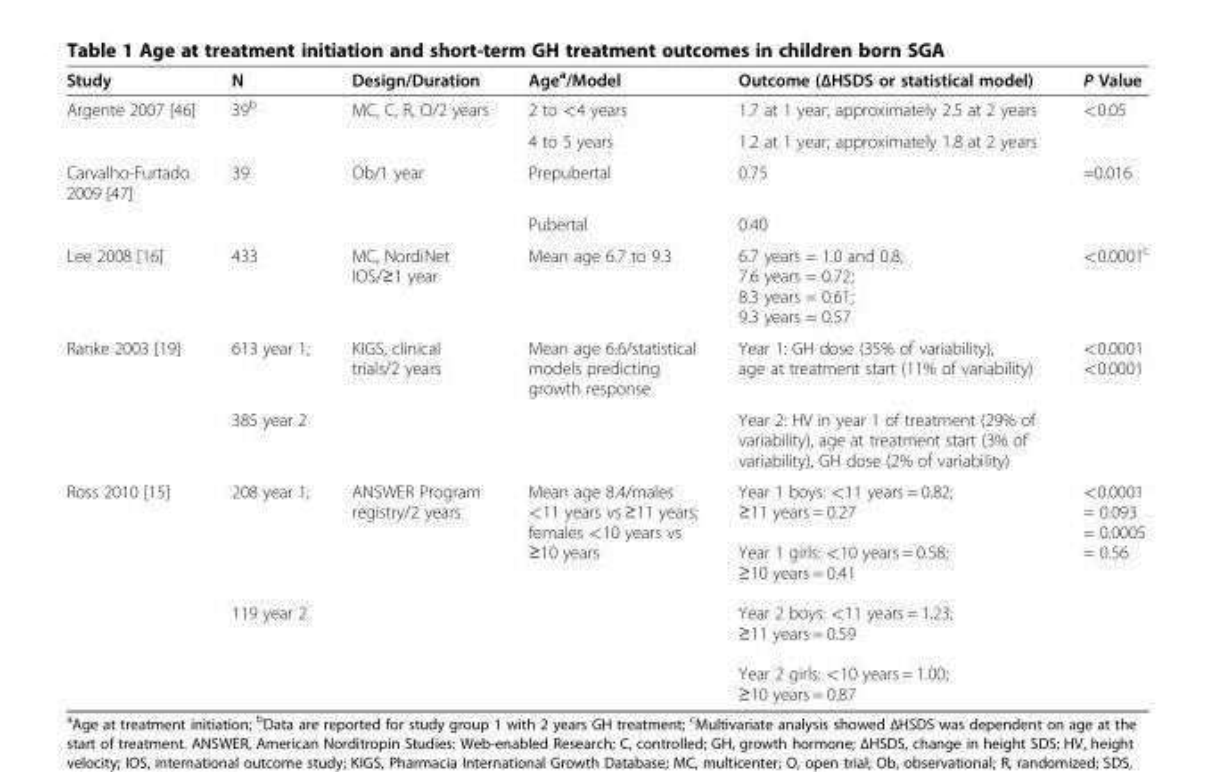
<table><thead><tr><td>Study</td><td>N</td><td>Design/Duration</td><td>Age<sup>a</sup>/Model</td><td>Outcome (ΔHSDS or statistical model)</td><td>P Value</td></tr></thead><tbody><tr><td rowspan="2">Argente 2007 [46]</td><td>39<sup>b</sup></td><td>MC, C, R, O/2 years</td><td>2 to &lt;4 years</td><td>1.7 at 1 year; approximately 2.5 at 2 years</td><td>&lt;0.05</td></tr><tr><td></td><td></td><td>4 to 5 years</td><td>1.2 at 1 year; approximately 1.8 at 2 years</td><td></td></tr><tr><td rowspan="2">Carvalho-Furtado 2009 [47]</td><td>39</td><td>Ob/1 year</td><td>Prepubertal</td><td>0.75</td><td>=0.016</td></tr><tr><td></td><td></td><td>Pubertal</td><td>0.40</td><td></td></tr><tr><td>Lee 2008 [16]</td><td>433</td><td>MC, NordiNet IOS/≥1 year</td><td>Mean age 6.7 to 9.3</td><td>6.7 years = 1.0 and 0.8; 7.6 years = 0.72; 8.3 years = 0.61; 9.3 years = 0.57</td><td>&lt;0.0001<sup>c</sup></td></tr><tr><td rowspan="2">Ranke 2003 [19]</td><td>613 year 1;</td><td>KIGS, clinical trials/2 years</td><td>Mean age 6.6/statistical models predicting growth response</td><td>Year 1: GH dose (35% of variability), age at treatment start (11% of variability)</td><td>&lt;0.0001 &lt;0.0001</td></tr><tr><td>385 year 2</td><td></td><td></td><td>Year 2: HV in year 1 of treatment (29% of variability), age at treatment start (3% of variability), GH dose (2% of variability)</td><td></td></tr><tr><td>Ross 2010 [15]</td><td>208 year 1; 119 year 2</td><td>ANSWER Program registry/2 years</td><td>Mean age 8.4/males &lt;11 years vs ≥11 years; females &lt;10 years vs ≥10 years</td><td>Year 1 boys: &lt;11 years = 0.82; ≥11 years = 0.27 Year 1 girls: &lt;10 years = 0.58; ≥10 years = 0.41 Year 2 boys: &lt;11 years = 1.23; ≥11 years = 0.59 Year 2 girls: &lt;10 years = 1.00; ≥10 years = 0.87</td><td>&lt;0.0001 = 0.093 = 0.0005 = 0.56</td></tr></tbody></table>